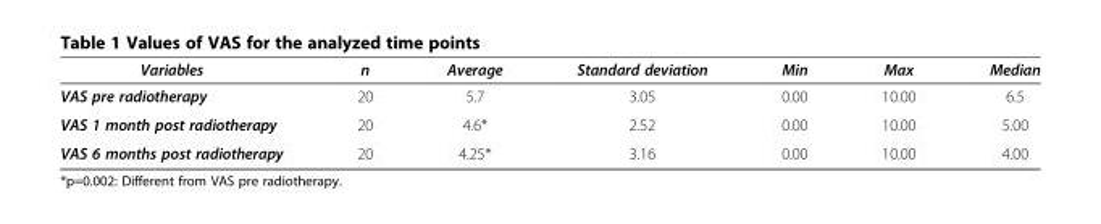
<table><thead><tr><td>Variables</td><td>n</td><td>Average</td><td>Standard deviation</td><td>Min</td><td>Max</td><td>Median</td></tr></thead><tbody><tr><td>VAS pre radiotherapy</td><td>20</td><td>5.7</td><td>3.05</td><td>0.00</td><td>10.00</td><td>6.5</td></tr><tr><td>VAS 1 month post radiotherapy</td><td>20</td><td>4.6*</td><td>2.52</td><td>0.00</td><td>10.00</td><td>5.00</td></tr><tr><td>VAS 6 months post radiotherapy</td><td>20</td><td>4.25*</td><td>3.16</td><td>0.00</td><td>10.00</td><td>4.00</td></tr></tbody></table>